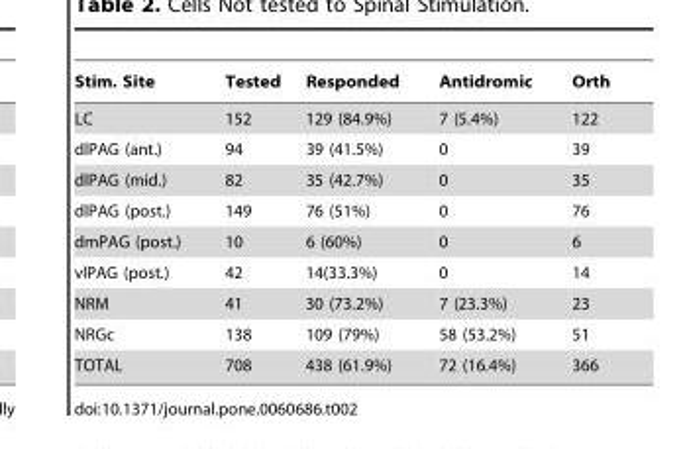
<table><thead><tr><td>Stim. Site</td><td>Tested</td><td>Responded</td><td>Antidromic</td><td>Orth</td></tr></thead><tbody><tr><td>LC</td><td>152</td><td>129 (84.9%)</td><td>7 (5.4%)</td><td>122</td></tr><tr><td>dlPAG (ant.)</td><td>94</td><td>39 (41.5%)</td><td>0</td><td>39</td></tr><tr><td>dlPAG (mid.)</td><td>82</td><td>35 (42.7%)</td><td>0</td><td>35</td></tr><tr><td>dlPAG (post.)</td><td>149</td><td>76 (51%)</td><td>0</td><td>76</td></tr><tr><td>dmPAG (post.)</td><td>10</td><td>6 (60%)</td><td>0</td><td>6</td></tr><tr><td>vlPAG (post.)</td><td>42</td><td>14(33.3%)</td><td>0</td><td>14</td></tr><tr><td>NRM</td><td>41</td><td>30 (73.2%)</td><td>7 (23.3%)</td><td>23</td></tr><tr><td>NRGc</td><td>138</td><td>109 (79%)</td><td>58 (53.2%)</td><td>51</td></tr><tr><td>TOTAL</td><td>708</td><td>438 (61.9%)</td><td>72 (16.4%)</td><td>366</td></tr></tbody></table>